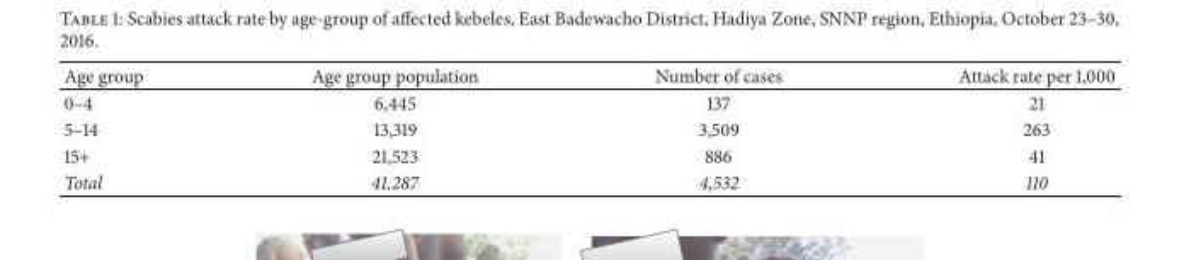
<table><thead><tr><td>Age group</td><td>Age group population</td><td>Number of cases</td><td>Attack rate per 1,000</td></tr></thead><tbody><tr><td>0–4</td><td>6,445</td><td>137</td><td>21</td></tr><tr><td>5–14</td><td>13,319</td><td>3,509</td><td>263</td></tr><tr><td>15+</td><td>21,523</td><td>886</td><td>41</td></tr><tr><td>Total</td><td>41,287</td><td>4,532</td><td>110</td></tr></tbody></table>